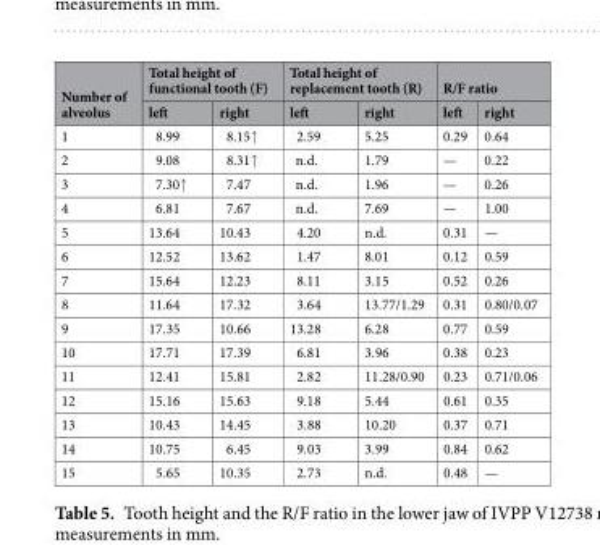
<table><thead><tr><td rowspan="2">Number of alveolus</td><td colspan="2">Total height of functional tooth (F)</td><td colspan="2">Total height of replacement tooth (R)</td><td colspan="2">R/F ratio</td></tr><tr><td>left</td><td>right</td><td>left</td><td>right</td><td>left</td><td>right</td></tr></thead><tbody><tr><td>1</td><td>8.99</td><td>8.15↑</td><td>2.59</td><td>5.25</td><td>0.29</td><td>0.64</td></tr><tr><td>2</td><td>9.08</td><td>8.31↑</td><td>n.d.</td><td>1.79</td><td>—</td><td>0.22</td></tr><tr><td>3</td><td>7.30↑</td><td>7.47</td><td>n.d.</td><td>1.96</td><td>—</td><td>0.26</td></tr><tr><td>4</td><td>6.81</td><td>7.67</td><td>n.d.</td><td>7.69</td><td>—</td><td>1.00</td></tr><tr><td>5</td><td>13.64</td><td>10.43</td><td>4.20</td><td>n.d.</td><td>0.31</td><td>—</td></tr><tr><td>6</td><td>12.52</td><td>13.62</td><td>1.47</td><td>8.01</td><td>0.12</td><td>0.59</td></tr><tr><td>7</td><td>15.64</td><td>12.23</td><td>8.11</td><td>3.15</td><td>0.52</td><td>0.26</td></tr><tr><td>8</td><td>11.64</td><td>17.32</td><td>3.64</td><td>13.77/1.29</td><td>0.31</td><td>0.80/0.07</td></tr><tr><td>9</td><td>17.35</td><td>10.66</td><td>13.28</td><td>6.28</td><td>0.77</td><td>0.59</td></tr><tr><td>10</td><td>17.71</td><td>17.39</td><td>6.81</td><td>3.96</td><td>0.38</td><td>0.23</td></tr><tr><td>11</td><td>12.41</td><td>15.81</td><td>2.82</td><td>11.28/0.90</td><td>0.23</td><td>0.71/0.06</td></tr><tr><td>12</td><td>15.16</td><td>15.63</td><td>9.18</td><td>5.44</td><td>0.61</td><td>0.35</td></tr><tr><td>13</td><td>10.43</td><td>14.45</td><td>3.88</td><td>10.20</td><td>0.37</td><td>0.71</td></tr><tr><td>14</td><td>10.75</td><td>6.45</td><td>9.03</td><td>3.99</td><td>0.84</td><td>0.62</td></tr><tr><td>15</td><td>5.65</td><td>10.35</td><td>2.73</td><td>n.d.</td><td>0.48</td><td>—</td></tr></tbody></table>